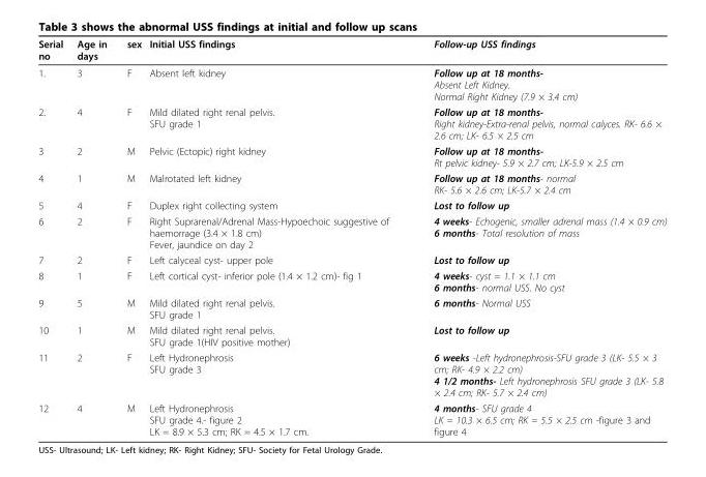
<table><thead><tr><td>Serial no</td><td>Age in days</td><td>sex</td><td>Initial USS findings</td><td>Follow-up USS findings</td></tr></thead><tbody><tr><td>1.</td><td>3</td><td>F</td><td>Absent left kidney</td><td>Follow up at 18 months- Absent Left Kidney. Normal Right Kidney (7.9 × 3.4 cm)</td></tr><tr><td>2.</td><td>4</td><td>F</td><td>Mild dilated right renal pelvis. SFU grade 1</td><td>Follow up at 18 months- Right kidney-Extra-renal pelvis, normal calyces. RK- 6.6 × 2.6 cm; LK- 6.5 × 2.5 cm</td></tr><tr><td>3</td><td>2</td><td>M</td><td>Pelvic (Ectopic) right kidney</td><td>Follow up at 18 months- Rt pelvic kidney- 5.9 × 2.7 cm; LK-5.9 × 2.5 cm</td></tr><tr><td>4</td><td>1</td><td>M</td><td>Malrotated left kidney</td><td>Follow up at 18 months- normal RK- 5.6 × 2.6 cm; LK-5.7 × 2.4 cm</td></tr><tr><td>5</td><td>4</td><td>F</td><td>Duplex right collecting system</td><td>Lost to follow up</td></tr><tr><td>6</td><td>2</td><td>F</td><td>Right Suprarenal/Adrenal Mass-Hypoechoic suggestive of haemorrage (3.4 × 1.8 cm) Fever, jaundice on day 2</td><td>4 weeks- Echogenic, smaller adrenal mass (1.4 × 0.9 cm) 6 months- Total resolution of mass</td></tr><tr><td>7</td><td>2</td><td>F</td><td>Left calyceal cyst- upper pole</td><td>Lost to follow up</td></tr><tr><td>8</td><td>1</td><td>F</td><td>Left cortical cyst- inferior pole (1.4 × 1.2 cm)- fig 1</td><td>4 weeks- cyst = 1.1 × 1.1 cm 6 months- normal USS. No cyst</td></tr><tr><td>9</td><td>5</td><td>M</td><td>Mild dilated right renal pelvis. SFU grade 1</td><td>6 months- Normal USS</td></tr><tr><td>10</td><td>1</td><td>M</td><td>Mild dilated right renal pelvis. SFU grade 1(HIV positive mother)</td><td>Lost to follow up</td></tr><tr><td>11</td><td>2</td><td>F</td><td>Left Hydronephrosis SFU grade 3</td><td>6 weeks -Left hydronephrosis-SFU grade 3 (LK- 5.5 × 3 cm; RK- 4.9 × 2.2 cm) 4 1/2 months- Left hydronephrosis SFU grade 3 (LK- 5.8 × 2.4 cm; RK- 5.7 × 2.4 cm)</td></tr><tr><td>12</td><td>4</td><td>M</td><td>Left Hydronephrosis SFU grade 4.- figure 2 LK = 8.9 × 5.3 cm; RK = 4.5 × 1.7 cm.</td><td>4 months- SFU grade 4 LK = 10.3 × 6.5 cm; RK = 5.5 × 2.5 cm -figure 3 and figure 4</td></tr></tbody></table>